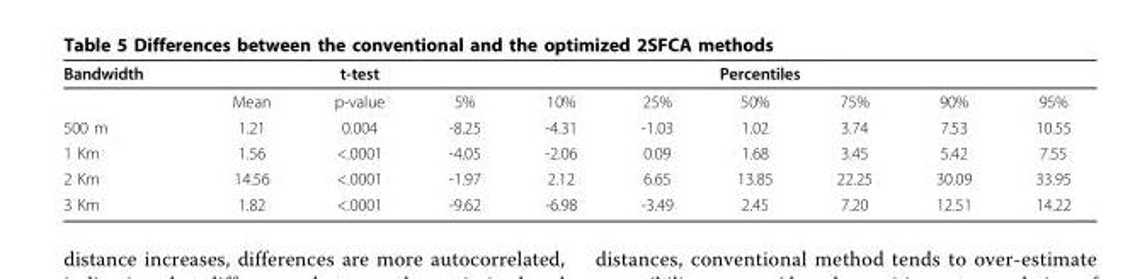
<table><thead><tr><td rowspan="2">Bandwidth</td><td rowspan="2">Mean</td><td rowspan="2">t-test p-value</td><td colspan="7">Percentiles</td></tr><tr><td>5%</td><td>10%</td><td>25%</td><td>50%</td><td>75%</td><td>90%</td><td>95%</td></tr></thead><tbody><tr><td>500 m</td><td>1.21</td><td>0.004</td><td>-8.25</td><td>-4.31</td><td>-1.03</td><td>1.02</td><td>3.74</td><td>7.53</td><td>10.55</td></tr><tr><td>1 Km</td><td>1.56</td><td>&lt;.0001</td><td>-4.05</td><td>-2.06</td><td>0.09</td><td>1.68</td><td>3.45</td><td>5.42</td><td>7.55</td></tr><tr><td>2 Km</td><td>14.56</td><td>&lt;.0001</td><td>-1.97</td><td>2.12</td><td>6.65</td><td>13.85</td><td>22.25</td><td>30.09</td><td>33.95</td></tr><tr><td>3 Km</td><td>1.82</td><td>&lt;.0001</td><td>-9.62</td><td>-6.98</td><td>-3.49</td><td>2.45</td><td>7.20</td><td>12.51</td><td>14.22</td></tr></tbody></table>